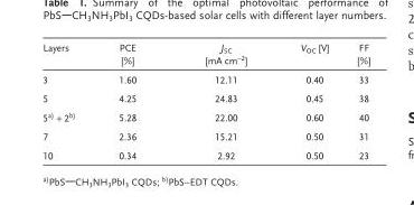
<table><thead><tr><td>Layers</td><td>PCE [%]</td><td>J <sub>SC</sub> [mA cm <sup>−2</sup> ]</td><td>V <sub>OC</sub> [V]</td><td>FF [%]</td></tr></thead><tbody><tr><td>3</td><td>1.60</td><td>12.11</td><td>0.40</td><td>33</td></tr><tr><td>5</td><td>4.25</td><td>24.83</td><td>0.45</td><td>38</td></tr><tr><td>5 a) + 2 b)</td><td>5.28</td><td>22.00</td><td>0.60</td><td>40</td></tr><tr><td>7</td><td>2.36</td><td>15.21</td><td>0.50</td><td>31</td></tr><tr><td>10</td><td>0.34</td><td>2.92</td><td>0.50</td><td>23</td></tr></tbody></table>